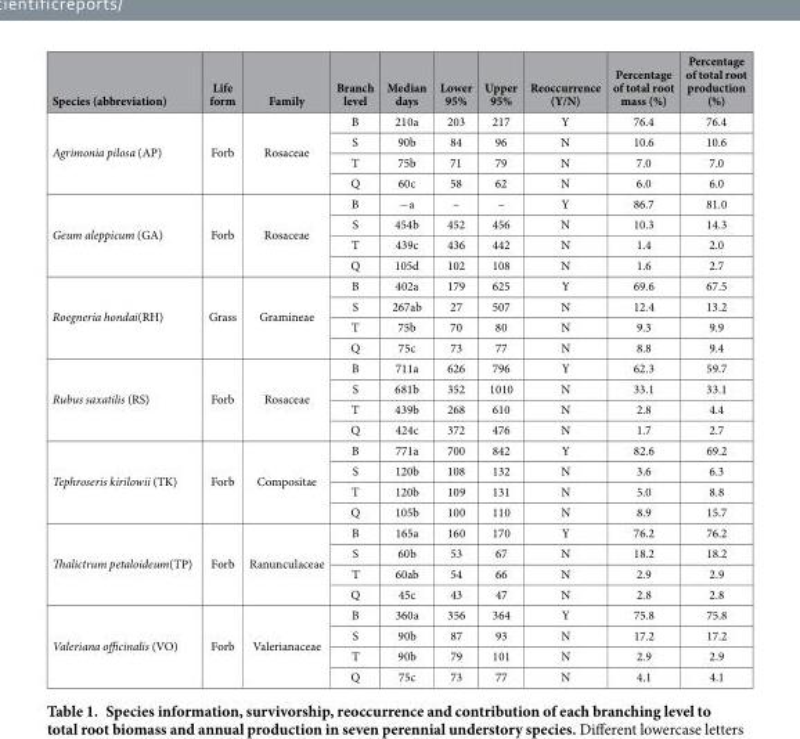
<table><thead><tr><td>Species (abbreviation)</td><td>Life form</td><td>Family</td><td>Branch level</td><td>Median days</td><td>Lower 95%</td><td>Upper 95%</td><td>Reoccurrence (Y/N)</td><td>Percentage of total root mass (%)</td><td>Percentage of total root production (%)</td></tr></thead><tbody><tr><td rowspan="4">Agrimonia pilosa (AP)</td><td rowspan="4">Forb</td><td rowspan="4">Rosaceae</td><td>B</td><td>210a</td><td>203</td><td>217</td><td>Y</td><td>76.4</td><td>76.4</td></tr><tr><td>S</td><td>90b</td><td>84</td><td>96</td><td>N</td><td>10.6</td><td>10.6</td></tr><tr><td>T</td><td>75b</td><td>71</td><td>79</td><td>N</td><td>7.0</td><td>7.0</td></tr><tr><td>Q</td><td>60c</td><td>58</td><td>62</td><td>N</td><td>6.0</td><td>6.0</td></tr><tr><td rowspan="4">Geum aleppicum (GA)</td><td rowspan="4">Forb</td><td rowspan="4">Rosaceae</td><td>B</td><td>−a</td><td>–</td><td>–</td><td>Y</td><td>86.7</td><td>81.0</td></tr><tr><td>S</td><td>454b</td><td>452</td><td>456</td><td>N</td><td>10.3</td><td>14.3</td></tr><tr><td>T</td><td>439c</td><td>436</td><td>442</td><td>N</td><td>1.4</td><td>2.0</td></tr><tr><td>Q</td><td>105d</td><td>102</td><td>108</td><td>N</td><td>1.6</td><td>2.7</td></tr><tr><td rowspan="4">Roegneria hondai(RH)</td><td rowspan="4">Grass</td><td rowspan="4">Gramineae</td><td>B</td><td>402a</td><td>179</td><td>625</td><td>Y</td><td>69.6</td><td>67.5</td></tr><tr><td>S</td><td>267ab</td><td>27</td><td>507</td><td>N</td><td>12.4</td><td>13.2</td></tr><tr><td>T</td><td>75b</td><td>70</td><td>80</td><td>N</td><td>9.3</td><td>9.9</td></tr><tr><td>Q</td><td>75c</td><td>73</td><td>77</td><td>N</td><td>8.8</td><td>9.4</td></tr><tr><td rowspan="4">Rubus saxatilis (RS)</td><td rowspan="4">Forb</td><td rowspan="4">Rosaceae</td><td>B</td><td>711a</td><td>626</td><td>796</td><td>Y</td><td>62.3</td><td>59.7</td></tr><tr><td>S</td><td>681b</td><td>352</td><td>1010</td><td>N</td><td>33.1</td><td>33.1</td></tr><tr><td>T</td><td>439b</td><td>268</td><td>610</td><td>N</td><td>2.8</td><td>4.4</td></tr><tr><td>Q</td><td>424c</td><td>372</td><td>476</td><td>N</td><td>1.7</td><td>2.7</td></tr><tr><td rowspan="4">Tephroseris kirilowii (TK)</td><td rowspan="4">Forb</td><td rowspan="4">Compositae</td><td>B</td><td>771a</td><td>700</td><td>842</td><td>Y</td><td>82.6</td><td>69.2</td></tr><tr><td>S</td><td>120b</td><td>108</td><td>132</td><td>N</td><td>3.6</td><td>6.3</td></tr><tr><td>T</td><td>120b</td><td>109</td><td>131</td><td>N</td><td>5.0</td><td>8.8</td></tr><tr><td>Q</td><td>105b</td><td>100</td><td>110</td><td>N</td><td>8.9</td><td>15.7</td></tr><tr><td rowspan="4">Thalictrum petaloideum(TP)</td><td rowspan="4">Forb</td><td rowspan="4">Ranunculaceae</td><td>B</td><td>165a</td><td>160</td><td>170</td><td>Y</td><td>76.2</td><td>76.2</td></tr><tr><td>S</td><td>60b</td><td>53</td><td>67</td><td>N</td><td>18.2</td><td>18.2</td></tr><tr><td>T</td><td>60ab</td><td>54</td><td>66</td><td>N</td><td>2.9</td><td>2.9</td></tr><tr><td>Q</td><td>45c</td><td>43</td><td>47</td><td>N</td><td>2.8</td><td>2.8</td></tr><tr><td rowspan="4">Valeriana officinalis (VO)</td><td rowspan="4">Forb</td><td rowspan="4">Valerianaceae</td><td>B</td><td>360a</td><td>356</td><td>364</td><td>Y</td><td>75.8</td><td>75.8</td></tr><tr><td>S</td><td>90b</td><td>87</td><td>93</td><td>N</td><td>17.2</td><td>17.2</td></tr><tr><td>T</td><td>90b</td><td>79</td><td>101</td><td>N</td><td>2.9</td><td>2.9</td></tr><tr><td>Q</td><td>75c</td><td>73</td><td>77</td><td>N</td><td>4.1</td><td>4.1</td></tr></tbody></table>